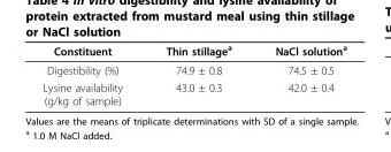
<table><thead><tr><td>Constituent</td><td>Thin stillage<sup>a</sup></td><td>NaCl solution<sup>a</sup></td></tr></thead><tbody><tr><td>Digestibility (%)</td><td>74.9 ± 0.8</td><td>74.5 ± 0.5</td></tr><tr><td>Lysine availability (g/kg of sample)</td><td>43.0 ± 0.3</td><td>42.0 ± 0.4</td></tr></tbody></table>